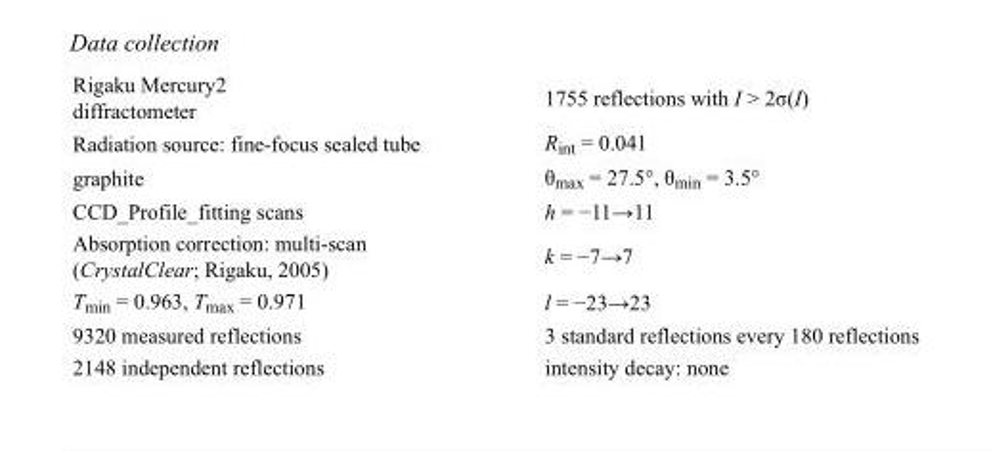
<table><tbody><tr><td>Rigaku Mercury2 diffractometer</td><td>1755 reflections with I &gt; 2σ(I)</td></tr><tr><td>Radiation source: fine-focus sealed tube</td><td>R<sub>int</sub> = 0.041</td></tr><tr><td>graphite</td><td>θ<sub>max</sub> = 27.5°, θ<sub>min</sub> = 3.5°</td></tr><tr><td>CCD_Profile_fitting scans</td><td>h = −11→11</td></tr><tr><td>Absorption correction: multi-scan (CrystalClear; Rigaku, 2005)</td><td>k = −7→7</td></tr><tr><td>T<sub>min</sub> = 0.963, T<sub>max</sub> = 0.971</td><td>l = −23→23</td></tr><tr><td>9320 measured reflections</td><td>3 standard reflections every 180 reflections</td></tr><tr><td>2148 independent reflections</td><td>intensity decay: none</td></tr></tbody></table>